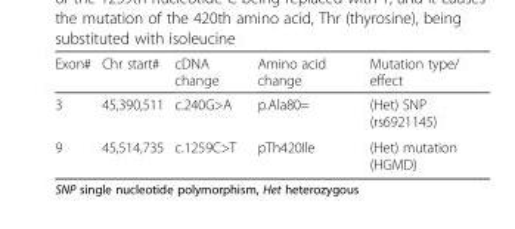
<table><thead><tr><td>Exon#</td><td>Chr start#</td><td>cDNA change</td><td>Amino acid change</td><td>Mutation type/ effect</td></tr></thead><tbody><tr><td>3</td><td>45,390,511</td><td>c.240G&gt;A</td><td>p.Ala80=</td><td>(Het) SNP (rs6921145)</td></tr><tr><td>9</td><td>45,514,735</td><td>c.1259C&gt;T</td><td>pTh420Ile</td><td>(Het) mutation (HGMD)</td></tr></tbody></table>